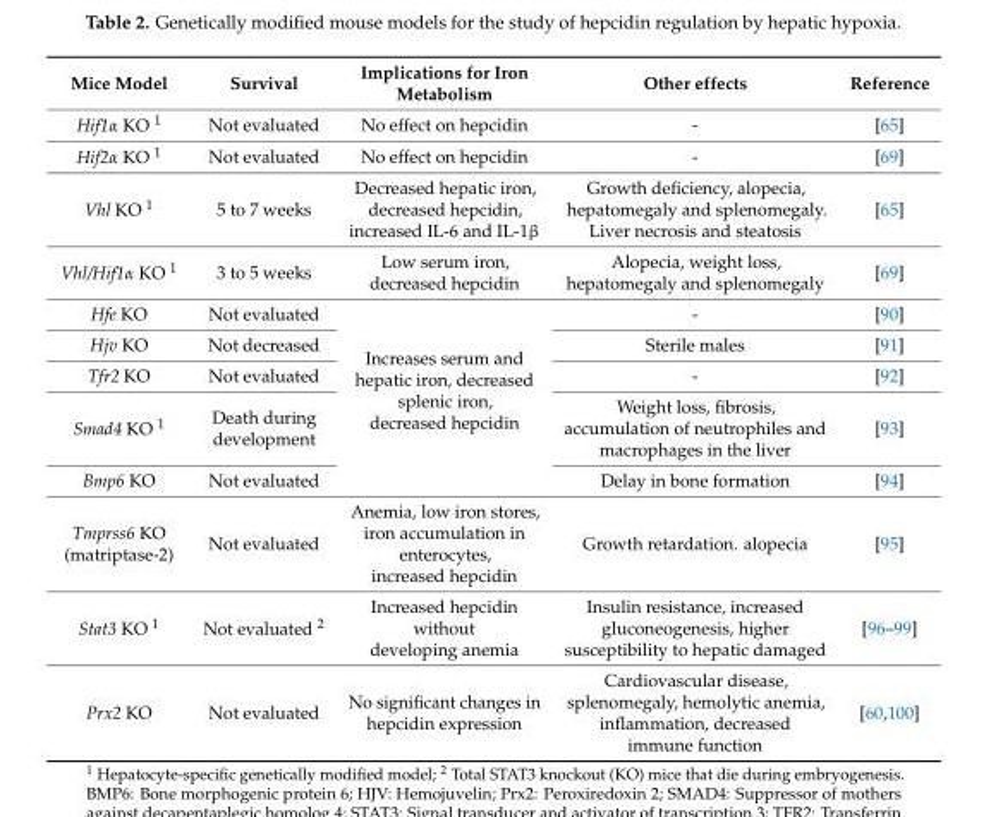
<table><thead><tr><td>Mice Model</td><td>Survival</td><td>Implications for Iron Metabolism</td><td>Other effects</td><td>Reference</td></tr></thead><tbody><tr><td>Hif1α KO <sup>1</sup></td><td>Not evaluated</td><td>No effect on hepcidin</td><td>-</td><td>[65]</td></tr><tr><td>Hif2α KO <sup>1</sup></td><td>Not evaluated</td><td>No effect on hepcidin</td><td>-</td><td>[69]</td></tr><tr><td>Vhl KO <sup>1</sup></td><td>5 to 7 weeks</td><td>Decreased hepatic iron, decreased hepcidin, increased IL-6 and IL-1β</td><td>Growth deficiency, alopecia, hepatomegaly and splenomegaly. Liver necrosis and steatosis</td><td>[65]</td></tr><tr><td>Vhl/Hif1α KO <sup>1</sup></td><td>3 to 5 weeks</td><td>Low serum iron, decreased hepcidin</td><td>Alopecia, weight loss, hepatomegaly and splenomegaly</td><td>[69]</td></tr><tr><td>Hfe KO</td><td>Not evaluated</td><td rowspan="5">Increases serum and hepatic iron, decreased splenic iron, decreased hepcidin</td><td>-</td><td>[90]</td></tr><tr><td>Hjv KO</td><td>Not decreased</td><td>Sterile males</td><td>[91]</td></tr><tr><td>Tfr2 KO</td><td>Not evaluated</td><td>-</td><td>[92]</td></tr><tr><td>Smad4 KO <sup>1</sup></td><td>Death during development</td><td>Weight loss, fibrosis, accumulation of neutrophiles and macrophages in the liver</td><td>[93]</td></tr><tr><td>Bmp6 KO</td><td>Not evaluated</td><td>Delay in bone formation</td><td>[94]</td></tr><tr><td>Tmprss6 KO (matriptase-2)</td><td>Not evaluated</td><td>Anemia, low iron stores, iron accumulation in enterocytes, increased hepcidin</td><td>Growth retardation. alopecia</td><td>[95]</td></tr><tr><td>Stat3 KO <sup>1</sup></td><td>Not evaluated <sup>2</sup></td><td>Increased hepcidin without developing anemia</td><td>Insulin resistance, increased gluconeogenesis, higher susceptibility to hepatic damaged</td><td>[96–99]</td></tr><tr><td>Prx2 KO</td><td>Not evaluated</td><td>No significant changes in hepcidin expression</td><td>Cardiovascular disease, splenomegaly, hemolytic anemia, inflammation, decreased immune function</td><td>[60,100]</td></tr></tbody></table>